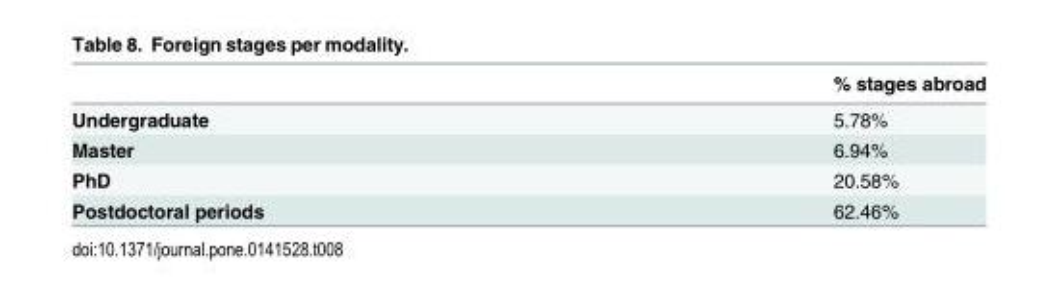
<table><thead><tr><td></td><td>% stages abroad</td></tr></thead><tbody><tr><td>Undergraduate</td><td>5.78%</td></tr><tr><td>Master</td><td>6.94%</td></tr><tr><td>PhD</td><td>20.58%</td></tr><tr><td>Postdoctoral periods</td><td>62.46%</td></tr></tbody></table>